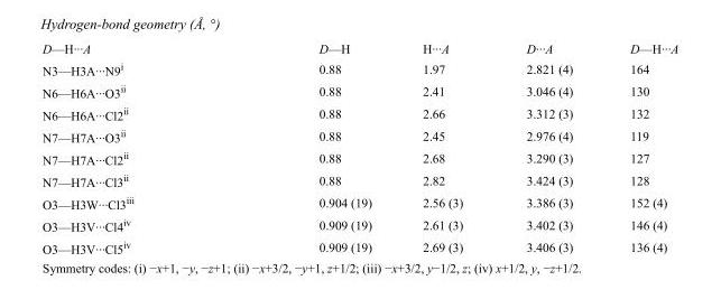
<table><tbody><tr><td>D—H···A</td><td>D—H</td><td>H···A</td><td>D···A</td><td>D—H···A</td></tr><tr><td>N3—H3A···N9<sup>i</sup></td><td>0.88</td><td>1.97</td><td>2.821 (4)</td><td>164</td></tr><tr><td>N6—H6A···O3<sup>ii</sup></td><td>0.88</td><td>2.41</td><td>3.046 (4)</td><td>130</td></tr><tr><td>N6—H6A···Cl2<sup>ii</sup></td><td>0.88</td><td>2.66</td><td>3.312 (3)</td><td>132</td></tr><tr><td>N7—H7A···O3<sup>ii</sup></td><td>0.88</td><td>2.45</td><td>2.976 (4)</td><td>119</td></tr><tr><td>N7—H7A···Cl2<sup>ii</sup></td><td>0.88</td><td>2.68</td><td>3.290 (3)</td><td>127</td></tr><tr><td>N7—H7A···Cl3<sup>ii</sup></td><td>0.88</td><td>2.82</td><td>3.424 (3)</td><td>128</td></tr><tr><td>O3—H3W···Cl3<sup>iii</sup></td><td>0.904 (19)</td><td>2.56 (3)</td><td>3.386 (3)</td><td>152 (4)</td></tr><tr><td>O3—H3V···Cl4<sup>iv</sup></td><td>0.909 (19)</td><td>2.61 (3)</td><td>3.402 (3)</td><td>146 (4)</td></tr><tr><td>O3—H3V···Cl5<sup>iv</sup></td><td>0.909 (19)</td><td>2.69 (3)</td><td>3.406 (3)</td><td>136 (4)</td></tr></tbody></table>